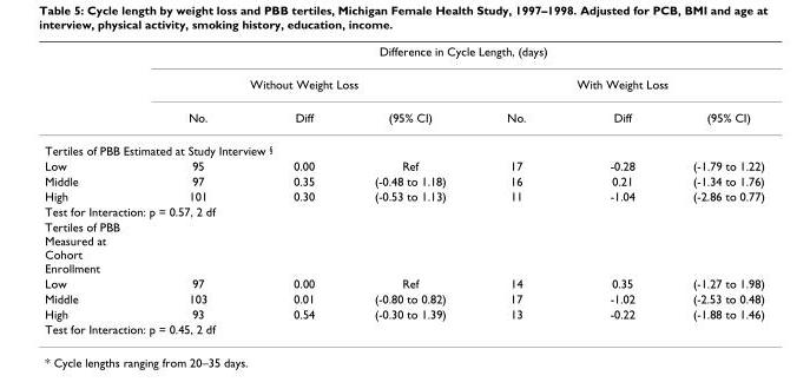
<table><thead><tr><td rowspan="3"></td><td colspan="6">Difference in Cycle Length, (days)</td></tr><tr><td colspan="3">Without Weight Loss</td><td colspan="3">With Weight Loss</td></tr><tr><td>No.</td><td>Diff</td><td>(95% CI)</td><td>No.</td><td>Diff</td><td>(95% CI)</td></tr></thead><tbody><tr><td colspan="7">Tertiles of PBB Estimated at Study Interview <sup>§</sup></td></tr><tr><td>Low</td><td>95</td><td>0.00</td><td>Ref</td><td>17</td><td>-0.28</td><td>(-1.79 to 1.22)</td></tr><tr><td>Middle</td><td>97</td><td>0.35</td><td>(-0.48 to 1.18)</td><td>16</td><td>0.21</td><td>(-1.34 to 1.76)</td></tr><tr><td>High</td><td>101</td><td>0.30</td><td>(-0.53 to 1.13)</td><td>11</td><td>-1.04</td><td>(-2.86 to 0.77)</td></tr><tr><td colspan="7">Test for Interaction: p = 0.57, 2 df</td></tr><tr><td colspan="7">Tertiles of PBB Measured at Cohort Enrollment</td></tr><tr><td>Low</td><td>97</td><td>0.00</td><td>Ref</td><td>14</td><td>0.35</td><td>(-1.27 to 1.98)</td></tr><tr><td>Middle</td><td>103</td><td>0.01</td><td>(-0.80 to 0.82)</td><td>17</td><td>-1.02</td><td>(-2.53 to 0.48)</td></tr><tr><td>High</td><td>93</td><td>0.54</td><td>(-0.30 to 1.39)</td><td>13</td><td>-0.22</td><td>(-1.88 to 1.46)</td></tr><tr><td colspan="7">Test for Interaction: p = 0.45, 2 df</td></tr></tbody></table>